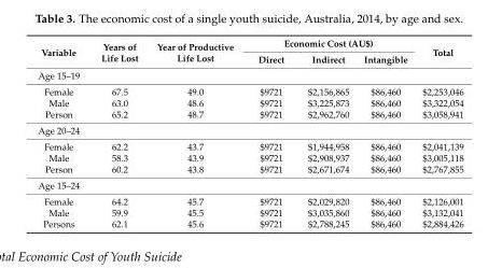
<table><thead><tr><td rowspan="2">Variable</td><td rowspan="2">Years of Life Lost</td><td rowspan="2">Year of Productive Life Lost</td><td colspan="3">Economic Cost (AU$)</td><td rowspan="2">Total</td></tr><tr><td>Direct</td><td>Indirect</td><td>Intangible</td></tr></thead><tbody><tr><td colspan="7">Age 15–19</td></tr><tr><td>Female</td><td>67.5</td><td>49.0</td><td>$9721</td><td>$2,156,865</td><td>$86,460</td><td>$2,253,046</td></tr><tr><td>Male</td><td>63.0</td><td>48.6</td><td>$9721</td><td>$3,225,873</td><td>$86,460</td><td>$3,322,054</td></tr><tr><td>Person</td><td>65.2</td><td>48.7</td><td>$9721</td><td>$2,962,760</td><td>$86,460</td><td>$3,058,941</td></tr><tr><td colspan="7">Age 20–24</td></tr><tr><td>Female</td><td>62.2</td><td>43.7</td><td>$9721</td><td>$1,944,958</td><td>$86,460</td><td>$2,041,139</td></tr><tr><td>Male</td><td>58.3</td><td>43.9</td><td>$9721</td><td>$2,908,937</td><td>$86,460</td><td>$3,005,118</td></tr><tr><td>Person</td><td>60.2</td><td>43.8</td><td>$9721</td><td>$2,671,674</td><td>$86,460</td><td>$2,767,855</td></tr><tr><td colspan="7">Age 15–24</td></tr><tr><td>Female</td><td>64.2</td><td>45.7</td><td>$9721</td><td>$2,029,820</td><td>$86,460</td><td>$2,126,001</td></tr><tr><td>Male</td><td>59.9</td><td>45.5</td><td>$9721</td><td>$3,035,860</td><td>$86,460</td><td>$3,132,041</td></tr><tr><td>Persons</td><td>62.1</td><td>45.6</td><td>$9721</td><td>$2,788,245</td><td>$86,460</td><td>$2,884,426</td></tr></tbody></table>